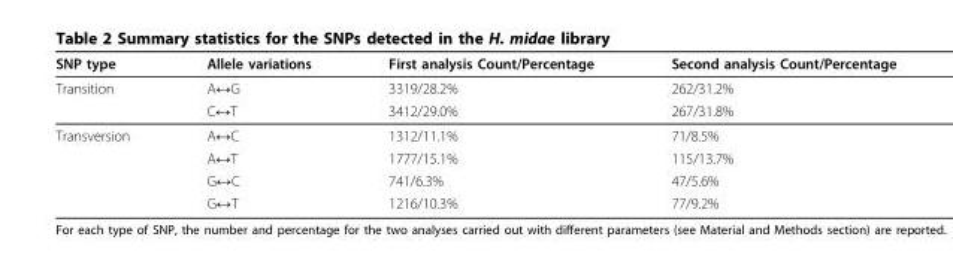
<table><thead><tr><td>SNP type</td><td>Allele variations</td><td>First analysis Count/Percentage</td><td>Second analysis Count/Percentage</td></tr></thead><tbody><tr><td rowspan="2">Transition</td><td>A↔G</td><td>3319/28.2%</td><td>262/31.2%</td></tr><tr><td>C↔T</td><td>3412/29.0%</td><td>267/31.8%</td></tr><tr><td rowspan="4">Transversion</td><td>A↔C</td><td>1312/11.1%</td><td>71/8.5%</td></tr><tr><td>A↔T</td><td>1777/15.1%</td><td>115/13.7%</td></tr><tr><td>G↔C</td><td>741/6.3%</td><td>47/5.6%</td></tr><tr><td>G↔T</td><td>1216/10.3%</td><td>77/9.2%</td></tr></tbody></table>